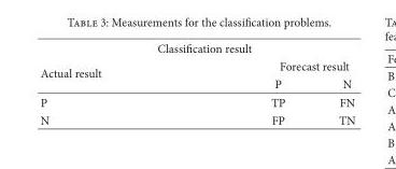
<table><thead><tr><td colspan="3">Classification result</td></tr><tr><td rowspan="2">Actual result</td><td colspan="2">Forecast result</td></tr><tr><td>P</td><td>N</td></tr></thead><tbody><tr><td>P</td><td>TP</td><td>FN</td></tr><tr><td>N</td><td>FP</td><td>TN</td></tr></tbody></table>